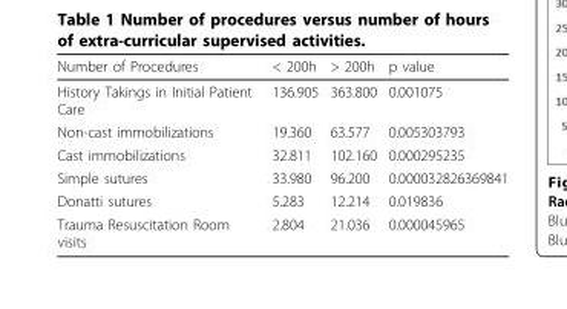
<table><thead><tr><td>Number of Procedures</td><td>&lt; 200h</td><td>&gt; 200h</td><td>p value</td></tr></thead><tbody><tr><td>History Takings in Initial Patient Care</td><td>136.905</td><td>363.800</td><td>0.001075</td></tr><tr><td>Non-cast immobilizations</td><td>19.360</td><td>63.577</td><td>0.005303793</td></tr><tr><td>Cast immobilizations</td><td>32.811</td><td>102.160</td><td>0.000295235</td></tr><tr><td>Simple sutures</td><td>33.980</td><td>96.200</td><td>0.000032826369841</td></tr><tr><td>Donatti sutures</td><td>5.283</td><td>12.214</td><td>0.019836</td></tr><tr><td>Trauma Resuscitation Room visits</td><td>2.804</td><td>21.036</td><td>0.000045965</td></tr></tbody></table>